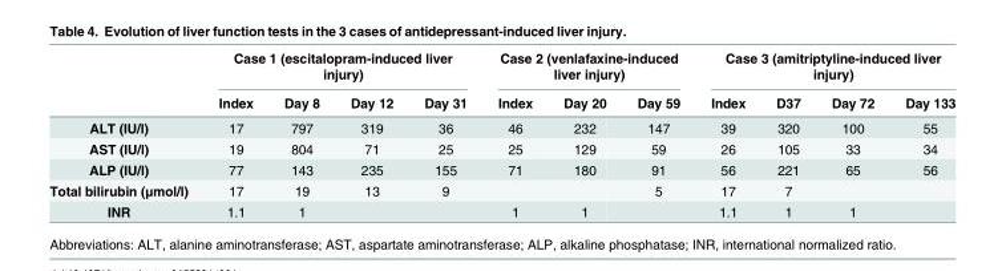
<table><thead><tr><td rowspan="2"></td><td colspan="4">Case 1 (escitalopram-induced liver injury)</td><td colspan="3">Case 2 (venlafaxine-induced liver injury)</td><td colspan="4">Case 3 (amitriptyline-induced liver injury)</td></tr><tr><td>Index</td><td>Day 8</td><td>Day 12</td><td>Day 31</td><td>Index</td><td>Day 20</td><td>Day 59</td><td>Index</td><td>D37</td><td>Day 72</td><td>Day 133</td></tr></thead><tbody><tr><td>ALT (IU/l)</td><td>17</td><td>797</td><td>319</td><td>36</td><td>46</td><td>232</td><td>147</td><td>39</td><td>320</td><td>100</td><td>55</td></tr><tr><td>AST (IU/l)</td><td>19</td><td>804</td><td>71</td><td>25</td><td>25</td><td>129</td><td>59</td><td>26</td><td>105</td><td>33</td><td>34</td></tr><tr><td>ALP (IU/l)</td><td>77</td><td>143</td><td>235</td><td>155</td><td>71</td><td>180</td><td>91</td><td>56</td><td>221</td><td>65</td><td>56</td></tr><tr><td>Total bilirubin (μmol/l)</td><td>17</td><td>19</td><td>13</td><td>9</td><td></td><td></td><td>5</td><td>17</td><td>7</td><td></td><td></td></tr><tr><td>INR</td><td>1.1</td><td>1</td><td></td><td></td><td>1</td><td>1</td><td></td><td>1.1</td><td>1</td><td>1</td><td></td></tr></tbody></table>